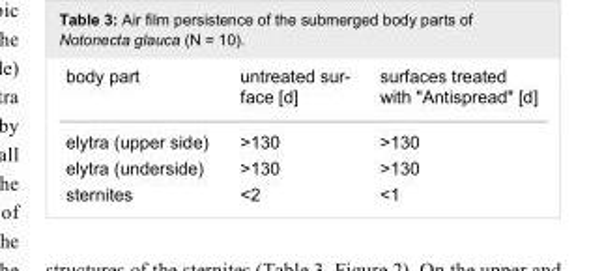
<table><tbody><tr><td>body part</td><td>untreated sur- face [d]</td><td>surfaces treated with &quot;Antispread&quot; [d]</td></tr><tr><td>elytra (upper side)</td><td>&gt;130</td><td>&gt;130</td></tr><tr><td>elytra (underside)</td><td>&gt;130</td><td>&gt;130</td></tr><tr><td>sternites</td><td>&lt;2</td><td>&lt;1</td></tr></tbody></table>